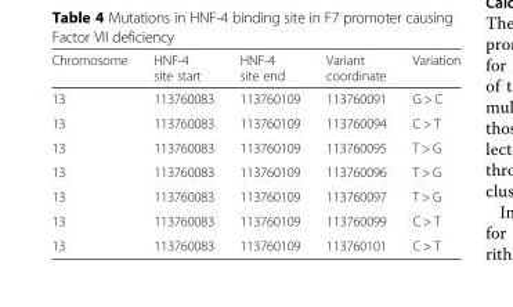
<table><thead><tr><td>Chromosome</td><td>HNF-4 site start</td><td>HNF-4 site end</td><td>Variant coordinate</td><td>Variation</td></tr></thead><tbody><tr><td>13</td><td>113760083</td><td>113760109</td><td>113760091</td><td>G &gt; C</td></tr><tr><td>13</td><td>113760083</td><td>113760109</td><td>113760094</td><td>C &gt; T</td></tr><tr><td>13</td><td>113760083</td><td>113760109</td><td>113760095</td><td>T &gt; G</td></tr><tr><td>13</td><td>113760083</td><td>113760109</td><td>113760096</td><td>T &gt; G</td></tr><tr><td>13</td><td>113760083</td><td>113760109</td><td>113760097</td><td>T &gt; G</td></tr><tr><td>13</td><td>113760083</td><td>113760109</td><td>113760099</td><td>C &gt; T</td></tr><tr><td>13</td><td>113760083</td><td>113760109</td><td>113760101</td><td>C &gt; T</td></tr></tbody></table>